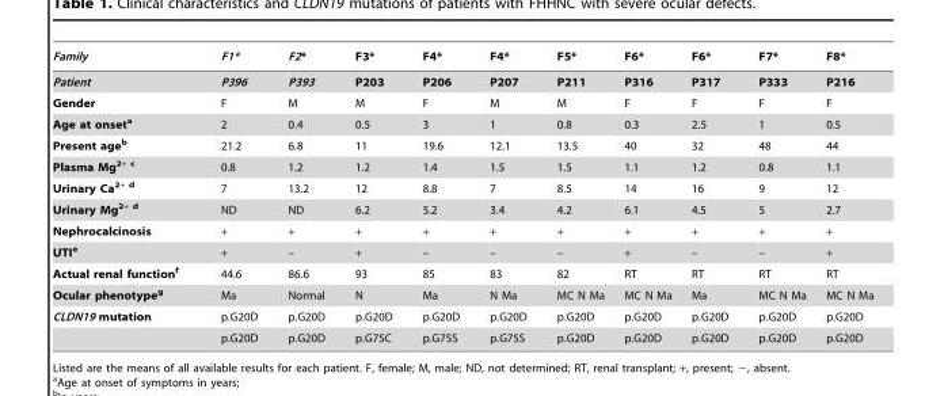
<table><thead><tr><td>Family</td><td>F1*</td><td>F2*</td><td>F3*</td><td>F4*</td><td>F4*</td><td>F5*</td><td>F6*</td><td>F6*</td><td>F7*</td><td>F8*</td></tr></thead><tbody><tr><td>Patient</td><td>P396</td><td>P393</td><td>P203</td><td>P206</td><td>P207</td><td>P211</td><td>P316</td><td>P317</td><td>P333</td><td>P216</td></tr><tr><td>Gender</td><td>F</td><td>M</td><td>M</td><td>F</td><td>M</td><td>M</td><td>F</td><td>F</td><td>F</td><td>F</td></tr><tr><td>Age at onseta</td><td>2</td><td>0.4</td><td>0.5</td><td>3</td><td>1</td><td>0.8</td><td>0.3</td><td>2.5</td><td>1</td><td>0.5</td></tr><tr><td>Present ageb</td><td>21.2</td><td>6.8</td><td>11</td><td>19.6</td><td>12.1</td><td>13.5</td><td>40</td><td>32</td><td>48</td><td>44</td></tr><tr><td>Plasma Mg<sup>2+</sup> c</td><td>0.8</td><td>1.2</td><td>1.2</td><td>1.4</td><td>1.5</td><td>1.5</td><td>1.1</td><td>1.2</td><td>0.8</td><td>1.1</td></tr><tr><td>Urinary Ca<sup>2+</sup> d</td><td>7</td><td>13.2</td><td>12</td><td>8.8</td><td>7</td><td>8.5</td><td>14</td><td>16</td><td>9</td><td>12</td></tr><tr><td>Urinary Mg<sup>2+</sup> d</td><td>ND</td><td>ND</td><td>6.2</td><td>5.2</td><td>3.4</td><td>4.2</td><td>6.1</td><td>4.5</td><td>5</td><td>2.7</td></tr><tr><td>Nephrocalcinosis</td><td>+</td><td>+</td><td>+</td><td>+</td><td>+</td><td>+</td><td>+</td><td>+</td><td>+</td><td>+</td></tr><tr><td>UTIe</td><td>+</td><td>–</td><td>+</td><td>–</td><td>–</td><td>–</td><td>+</td><td>–</td><td>–</td><td>+</td></tr><tr><td>Actual renal functionf</td><td>44.6</td><td>86.6</td><td>93</td><td>85</td><td>83</td><td>82</td><td>RT</td><td>RT</td><td>RT</td><td>RT</td></tr><tr><td>Ocular phenotypeg</td><td>Ma</td><td>Normal</td><td>N</td><td>Ma</td><td>N Ma</td><td>MC N Ma</td><td>MC N Ma</td><td>Ma</td><td>MC N Ma</td><td>MC N Ma</td></tr><tr><td rowspan="2">CLDN19 mutation</td><td>p.G20D</td><td>p.G20D</td><td>p.G20D</td><td>p.G20D</td><td>p.G20D</td><td>p.G20D</td><td>p.G20D</td><td>p.G20D</td><td>p.G20D</td><td>p.G20D</td></tr><tr><td>p.G20D</td><td>p.G20D</td><td>p.G75C</td><td>p.G75S</td><td>p.G75S</td><td>p.G20D</td><td>p.G20D</td><td>p.G20D</td><td>p.G20D</td><td>p.G20D</td></tr></tbody></table>